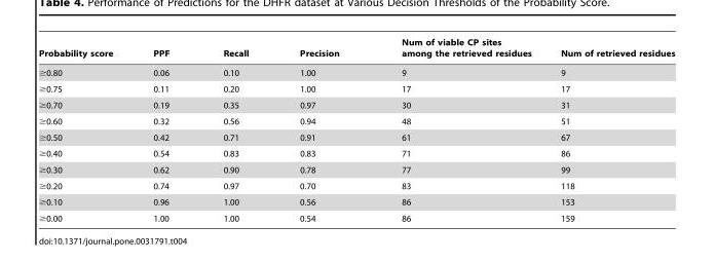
<table><thead><tr><td>Probability score</td><td>PPF</td><td>Recall</td><td>Precision</td><td>Num of viable CP sites among the retrieved residues</td><td>Num of retrieved residues</td></tr></thead><tbody><tr><td>≥0.80</td><td>0.06</td><td>0.10</td><td>1.00</td><td>9</td><td>9</td></tr><tr><td>≥0.75</td><td>0.11</td><td>0.20</td><td>1.00</td><td>17</td><td>17</td></tr><tr><td>≥0.70</td><td>0.19</td><td>0.35</td><td>0.97</td><td>30</td><td>31</td></tr><tr><td>≥0.60</td><td>0.32</td><td>0.56</td><td>0.94</td><td>48</td><td>51</td></tr><tr><td>≥0.50</td><td>0.42</td><td>0.71</td><td>0.91</td><td>61</td><td>67</td></tr><tr><td>≥0.40</td><td>0.54</td><td>0.83</td><td>0.83</td><td>71</td><td>86</td></tr><tr><td>≥0.30</td><td>0.62</td><td>0.90</td><td>0.78</td><td>77</td><td>99</td></tr><tr><td>≥0.20</td><td>0.74</td><td>0.97</td><td>0.70</td><td>83</td><td>118</td></tr><tr><td>≥0.10</td><td>0.96</td><td>1.00</td><td>0.56</td><td>86</td><td>153</td></tr><tr><td>≥0.00</td><td>1.00</td><td>1.00</td><td>0.54</td><td>86</td><td>159</td></tr></tbody></table>